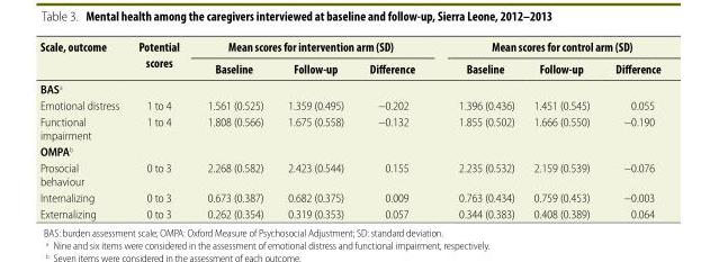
<table><thead><tr><td rowspan="2">Scale, outcome</td><td rowspan="2">Potential scores</td><td colspan="3">Mean scores for intervention arm (SD)</td><td colspan="3">Mean scores for control arm (SD)</td></tr><tr><td>Baseline</td><td>Follow-up</td><td>Difference</td><td>Baseline</td><td>Follow-up</td><td>Difference</td></tr></thead><tbody><tr><td colspan="8">BAS<sup>a</sup></td></tr><tr><td>Emotional distress</td><td>1 to 4</td><td>1.561 (0.525)</td><td>1.359 (0.495)</td><td>−0.202</td><td>1.396 (0.436)</td><td>1.451 (0.545)</td><td>0.055</td></tr><tr><td>Functional impairment</td><td>1 to 4</td><td>1.808 (0.566)</td><td>1.675 (0.558)</td><td>−0.132</td><td>1.855 (0.502)</td><td>1.666 (0.550)</td><td>−0.190</td></tr><tr><td colspan="8">OMPA<sup>b</sup></td></tr><tr><td>Prosocial behaviour</td><td>0 to 3</td><td>2.268 (0.582)</td><td>2.423 (0.544)</td><td>0.155</td><td>2.235 (0.532)</td><td>2.159 (0.539)</td><td>−0.076</td></tr><tr><td>Internalizing</td><td>0 to 3</td><td>0.673 (0.387)</td><td>0.682 (0.375)</td><td>0.009</td><td>0.763 (0.434)</td><td>0.759 (0.453)</td><td>−0.003</td></tr><tr><td>Externalizing</td><td>0 to 3</td><td>0.262 (0.354)</td><td>0.319 (0.353)</td><td>0.057</td><td>0.344 (0.383)</td><td>0.408 (0.389)</td><td>0.064</td></tr></tbody></table>